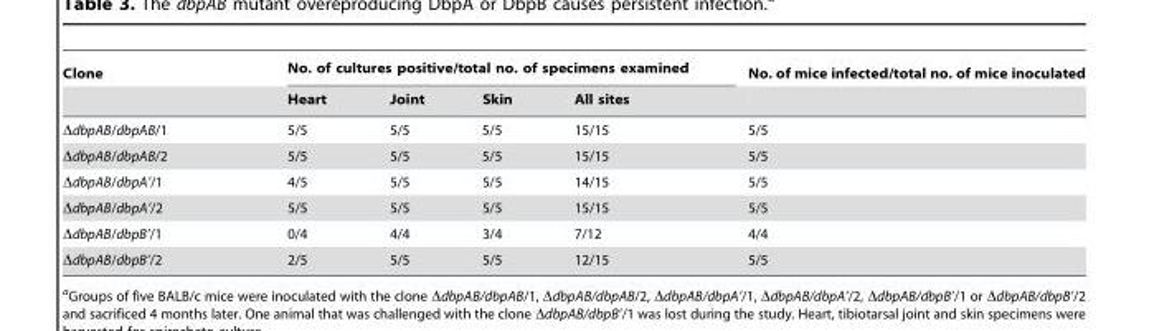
<table><thead><tr><td rowspan="2">Clone</td><td colspan="4">No. of cultures positive/total no. of specimens examined</td><td rowspan="2">No. of mice infected/total no. of mice inoculated</td></tr><tr><td>Heart</td><td>Joint</td><td>Skin</td><td>All sites</td></tr></thead><tbody><tr><td>ΔdbpAB/dbpAB/1</td><td>5/5</td><td>5/5</td><td>5/5</td><td>15/15</td><td>5/5</td></tr><tr><td>ΔdbpAB/dbpAB/2</td><td>5/5</td><td>5/5</td><td>5/5</td><td>15/15</td><td>5/5</td></tr><tr><td>ΔdbpAB/dbpA’/1</td><td>4/5</td><td>5/5</td><td>5/5</td><td>14/15</td><td>5/5</td></tr><tr><td>ΔdbpAB/dbpA’/2</td><td>5/5</td><td>5/5</td><td>5/5</td><td>15/15</td><td>5/5</td></tr><tr><td>ΔdbpAB/dbpB’/1</td><td>0/4</td><td>4/4</td><td>3/4</td><td>7/12</td><td>4/4</td></tr><tr><td>ΔdbpAB/dbpB’/2</td><td>2/5</td><td>5/5</td><td>5/5</td><td>12/15</td><td>5/5</td></tr></tbody></table>